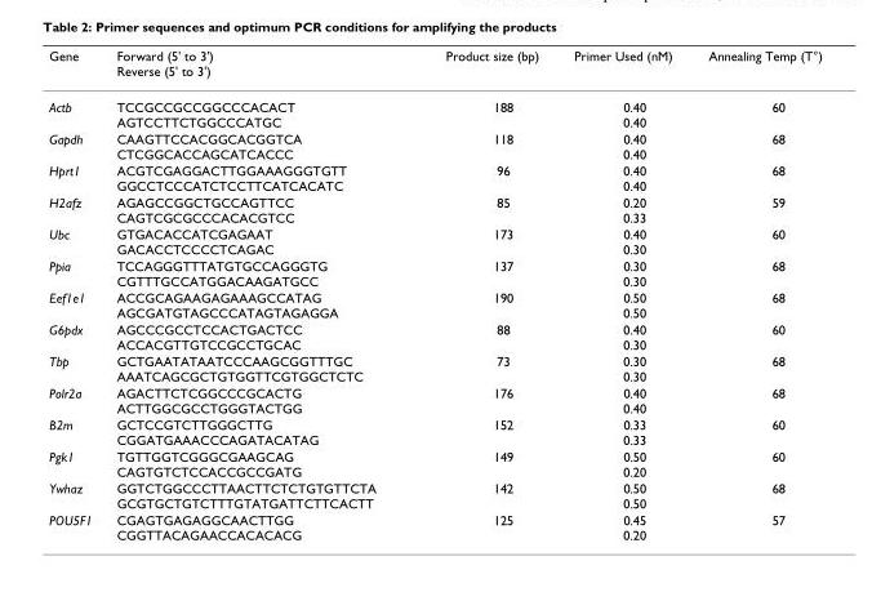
<table><thead><tr><td>Gene</td><td>Forward (5&#x27; to 3&#x27;) Reverse (5&#x27; to 3&#x27;)</td><td>Product size (bp)</td><td>Primer Used (nM)</td><td>Annealing Temp (T°)</td></tr></thead><tbody><tr><td>Actb</td><td>TCCGCCGCCGGCCCACACT AGTCCTTCTGGCCCATGC</td><td>188</td><td>0.40 0.40</td><td>60</td></tr><tr><td>Gapdh</td><td>CAAGTTCCACGGCACGGTCA CTCGGCACCAGCATCACCC</td><td>118</td><td>0.40 0.40</td><td>68</td></tr><tr><td>Hprt1</td><td>ACGTCGAGGACTTGGAAAGGGTGTT GGCCTCCCATCTCCTTCATCACATC</td><td>96</td><td>0.40 0.40</td><td>68</td></tr><tr><td>H2afz</td><td>AGAGCCGGCTGCCAGTTCC CAGTCGCGCCCACACGTCC</td><td>85</td><td>0.20 0.33</td><td>59</td></tr><tr><td>Ubc</td><td>GTGACACCATCGAGAAT GACACCTCCCCTCAGAC</td><td>173</td><td>0.40 0.30</td><td>60</td></tr><tr><td>Ppia</td><td>TCCAGGGTTTATGTGCCAGGGTG CGTTTGCCATGGACAAGATGCC</td><td>137</td><td>0.30 0.30</td><td>68</td></tr><tr><td>Eef1e1</td><td>ACCGCAGAAGAGAAAGCCATAG AGCGATGTAGCCCATAGTAGAGGA</td><td>190</td><td>0.50 0.50</td><td>68</td></tr><tr><td>G6pdx</td><td>AGCCCGCCTCCACTGACTCC ACCACGTTGTCCGCCTGCAC</td><td>88</td><td>0.40 0.30</td><td>60</td></tr><tr><td>Tbp</td><td>GCTGAATATAATCCCAAGCGGTTTGC AAATCAGCGCTGTGGTTCGTGGCTCTC</td><td>73</td><td>0.30 0.30</td><td>68</td></tr><tr><td>Polr2a</td><td>AGACTTCTCGGCCCGCACTG ACTTGGCGCCTGGGTACTGG</td><td>176</td><td>0.40 0.40</td><td>68</td></tr><tr><td>B2m</td><td>GCTCCGTCTTGGGCTTG CGGATGAAACCCAGATACATAG</td><td>152</td><td>0.33 0.33</td><td>60</td></tr><tr><td>Pgk1</td><td>TGTTGGTCGGGCGAAGCAG CAGTGTCTCCACCGCCGATG</td><td>149</td><td>0.50 0.20</td><td>60</td></tr><tr><td>Ywhaz</td><td>GGTCTGGCCCTTAACTTCTCTGTGTTCTA GCGTGCTGTCTTTGTATGATTCTTCACTT</td><td>142</td><td>0.50 0.50</td><td>68</td></tr><tr><td>POU5F1</td><td>CGAGTGAGAGGCAACTTGG CGGTTACAGAACCACACACG</td><td>125</td><td>0.45 0.20</td><td>57</td></tr></tbody></table>